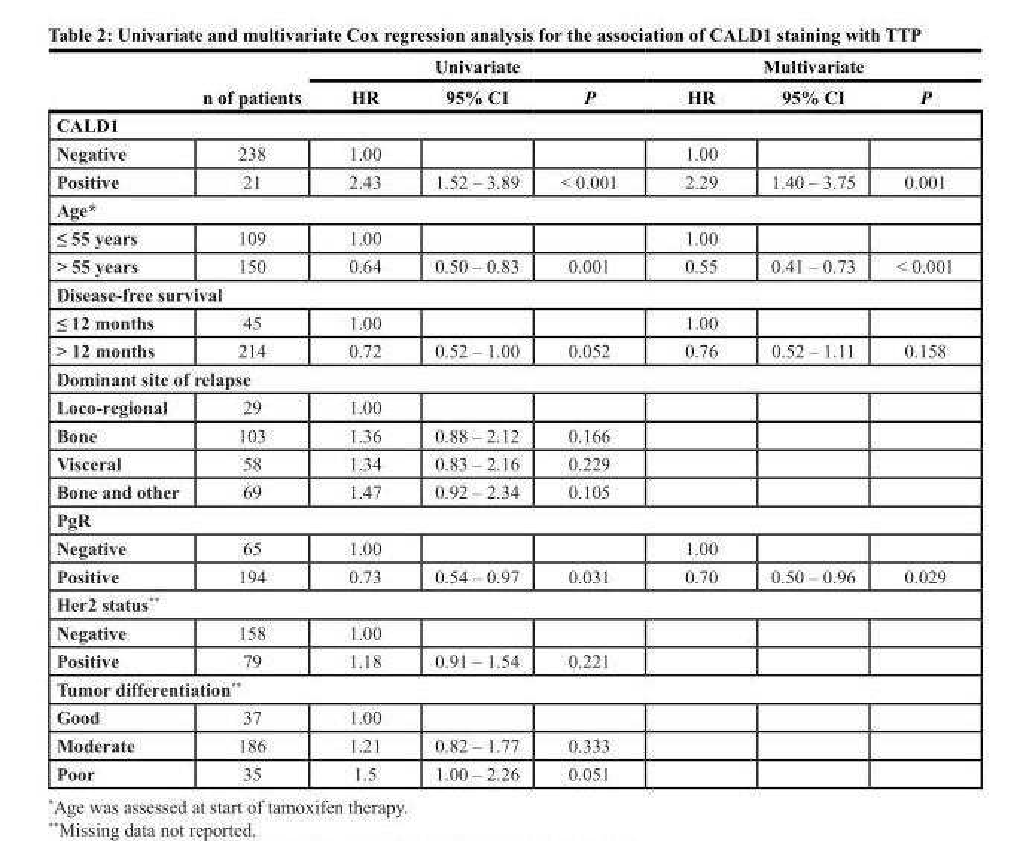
<table><thead><tr><td rowspan="2"></td><td rowspan="2">n of patients</td><td colspan="3">Univariate</td><td colspan="3">Multivariate</td></tr><tr><td>HR</td><td>95% CI</td><td>P</td><td>HR</td><td>95% CI</td><td>P</td></tr></thead><tbody><tr><td colspan="8">CALD1</td></tr><tr><td>Negative</td><td>238</td><td>1.00</td><td></td><td></td><td>1.00</td><td></td><td></td></tr><tr><td>Positive</td><td>21</td><td>2.43</td><td>1.52 – 3.89</td><td>&lt; 0.001</td><td>2.29</td><td>1.40 – 3.75</td><td>0.001</td></tr><tr><td colspan="8">Age*</td></tr><tr><td>≤ 55 years</td><td>109</td><td>1.00</td><td></td><td></td><td>1.00</td><td></td><td></td></tr><tr><td>&gt; 55 years</td><td>150</td><td>0.64</td><td>0.50 – 0.83</td><td>0.001</td><td>0.55</td><td>0.41 – 0.73</td><td>&lt; 0.001</td></tr><tr><td colspan="8">Disease-free survival</td></tr><tr><td>≤ 12 months</td><td>45</td><td>1.00</td><td></td><td></td><td>1.00</td><td></td><td></td></tr><tr><td>&gt; 12 months</td><td>214</td><td>0.72</td><td>0.52 – 1.00</td><td>0.052</td><td>0.76</td><td>0.52 – 1.11</td><td>0.158</td></tr><tr><td colspan="8">Dominant site of relapse</td></tr><tr><td>Loco-regional</td><td>29</td><td>1.00</td><td></td><td></td><td></td><td></td><td></td></tr><tr><td>Bone</td><td>103</td><td>1.36</td><td>0.88 – 2.12</td><td>0.166</td><td></td><td></td><td></td></tr><tr><td>Visceral</td><td>58</td><td>1.34</td><td>0.83 – 2.16</td><td>0.229</td><td></td><td></td><td></td></tr><tr><td>Bone and other</td><td>69</td><td>1.47</td><td>0.92 – 2.34</td><td>0.105</td><td></td><td></td><td></td></tr><tr><td colspan="8">PgR</td></tr><tr><td>Negative</td><td>65</td><td>1.00</td><td></td><td></td><td>1.00</td><td></td><td></td></tr><tr><td>Positive</td><td>194</td><td>0.73</td><td>0.54 – 0.97</td><td>0.031</td><td>0.70</td><td>0.50 – 0.96</td><td>0.029</td></tr><tr><td colspan="8">Her2 status**</td></tr><tr><td>Negative</td><td>158</td><td>1.00</td><td></td><td></td><td></td><td></td><td></td></tr><tr><td>Positive</td><td>79</td><td>1.18</td><td>0.91 – 1.54</td><td>0.221</td><td></td><td></td><td></td></tr><tr><td colspan="8">Tumor differentiation**</td></tr><tr><td>Good</td><td>37</td><td>1.00</td><td></td><td></td><td></td><td></td><td></td></tr><tr><td>Moderate</td><td>186</td><td>1.21</td><td>0.82 – 1.77</td><td>0.333</td><td></td><td></td><td></td></tr><tr><td>Poor</td><td>35</td><td>1.5</td><td>1.00 – 2.26</td><td>0.051</td><td></td><td></td><td></td></tr></tbody></table>